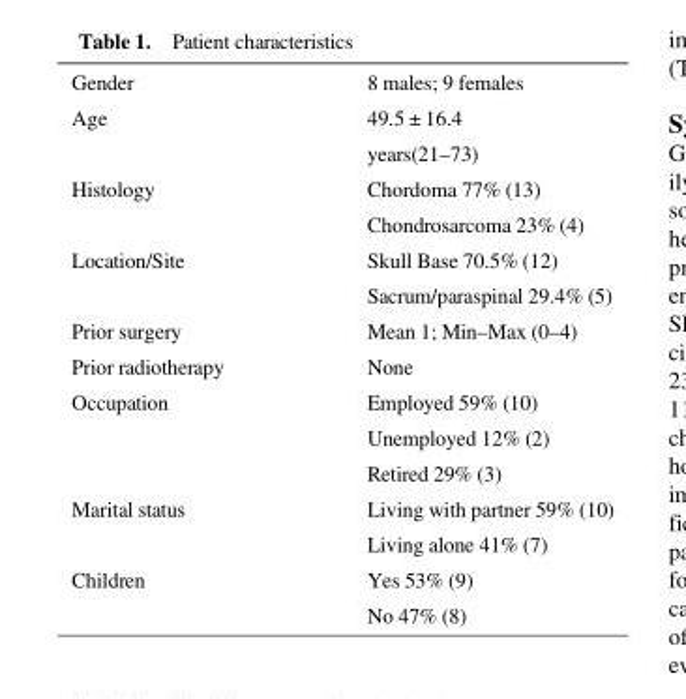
<table><tbody><tr><td>Gender</td><td>8 males; 9 females</td></tr><tr><td rowspan="2">Age</td><td>49.5 ± 16.4</td></tr><tr><td>years(21–73)</td></tr><tr><td rowspan="2">Histology</td><td>Chordoma 77% (13)</td></tr><tr><td>Chondrosarcoma 23% (4)</td></tr><tr><td rowspan="2">Location/Site</td><td>Skull Base 70.5% (12)</td></tr><tr><td>Sacrum/paraspinal 29.4% (5)</td></tr><tr><td>Prior surgery</td><td>Mean 1; Min–Max (0–4)</td></tr><tr><td>Prior radiotherapy</td><td>None</td></tr><tr><td rowspan="3">Occupation</td><td>Employed 59% (10)</td></tr><tr><td>Unemployed 12% (2)</td></tr><tr><td>Retired 29% (3)</td></tr><tr><td rowspan="2">Marital status</td><td>Living with partner 59% (10)</td></tr><tr><td>Living alone 41% (7)</td></tr><tr><td rowspan="2">Children</td><td>Yes 53% (9)</td></tr><tr><td>No 47% (8)</td></tr></tbody></table>